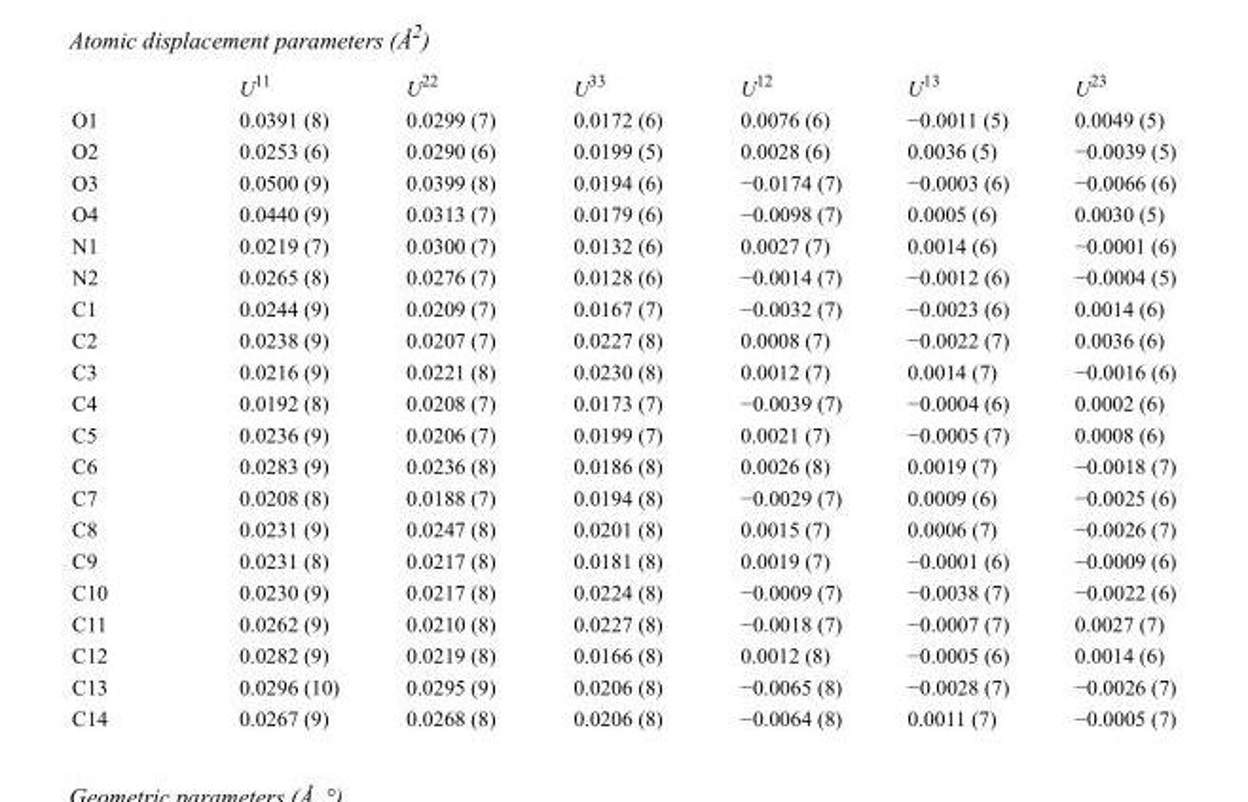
<table><thead><tr><td></td><td>U<sup>11</sup></td><td>U<sup>22</sup></td><td>U<sup>33</sup></td><td>U<sup>12</sup></td><td>U<sup>13</sup></td><td>U<sup>23</sup></td></tr></thead><tbody><tr><td>O1</td><td>0.0391 (8)</td><td>0.0299 (7)</td><td>0.0172 (6)</td><td>0.0076 (6)</td><td>−0.0011 (5)</td><td>0.0049 (5)</td></tr><tr><td>O2</td><td>0.0253 (6)</td><td>0.0290 (6)</td><td>0.0199 (5)</td><td>0.0028 (6)</td><td>0.0036 (5)</td><td>−0.0039 (5)</td></tr><tr><td>O3</td><td>0.0500 (9)</td><td>0.0399 (8)</td><td>0.0194 (6)</td><td>−0.0174 (7)</td><td>−0.0003 (6)</td><td>−0.0066 (6)</td></tr><tr><td>O4</td><td>0.0440 (9)</td><td>0.0313 (7)</td><td>0.0179 (6)</td><td>−0.0098 (7)</td><td>0.0005 (6)</td><td>0.0030 (5)</td></tr><tr><td>N1</td><td>0.0219 (7)</td><td>0.0300 (7)</td><td>0.0132 (6)</td><td>0.0027 (7)</td><td>0.0014 (6)</td><td>−0.0001 (6)</td></tr><tr><td>N2</td><td>0.0265 (8)</td><td>0.0276 (7)</td><td>0.0128 (6)</td><td>−0.0014 (7)</td><td>−0.0012 (6)</td><td>−0.0004 (5)</td></tr><tr><td>C1</td><td>0.0244 (9)</td><td>0.0209 (7)</td><td>0.0167 (7)</td><td>−0.0032 (7)</td><td>−0.0023 (6)</td><td>0.0014 (6)</td></tr><tr><td>C2</td><td>0.0238 (9)</td><td>0.0207 (7)</td><td>0.0227 (8)</td><td>0.0008 (7)</td><td>−0.0022 (7)</td><td>0.0036 (6)</td></tr><tr><td>C3</td><td>0.0216 (9)</td><td>0.0221 (8)</td><td>0.0230 (8)</td><td>0.0012 (7)</td><td>0.0014 (7)</td><td>−0.0016 (6)</td></tr><tr><td>C4</td><td>0.0192 (8)</td><td>0.0208 (7)</td><td>0.0173 (7)</td><td>−0.0039 (7)</td><td>−0.0004 (6)</td><td>0.0002 (6)</td></tr><tr><td>C5</td><td>0.0236 (9)</td><td>0.0206 (7)</td><td>0.0199 (7)</td><td>0.0021 (7)</td><td>−0.0005 (7)</td><td>0.0008 (6)</td></tr><tr><td>C6</td><td>0.0283 (9)</td><td>0.0236 (8)</td><td>0.0186 (8)</td><td>0.0026 (8)</td><td>0.0019 (7)</td><td>−0.0018 (7)</td></tr><tr><td>C7</td><td>0.0208 (8)</td><td>0.0188 (7)</td><td>0.0194 (8)</td><td>−0.0029 (7)</td><td>0.0009 (6)</td><td>−0.0025 (6)</td></tr><tr><td>C8</td><td>0.0231 (9)</td><td>0.0247 (8)</td><td>0.0201 (8)</td><td>0.0015 (7)</td><td>0.0006 (7)</td><td>−0.0026 (7)</td></tr><tr><td>C9</td><td>0.0231 (8)</td><td>0.0217 (8)</td><td>0.0181 (8)</td><td>0.0019 (7)</td><td>−0.0001 (6)</td><td>−0.0009 (6)</td></tr><tr><td>C10</td><td>0.0230 (9)</td><td>0.0217 (8)</td><td>0.0224 (8)</td><td>−0.0009 (7)</td><td>−0.0038 (7)</td><td>−0.0022 (6)</td></tr><tr><td>C11</td><td>0.0262 (9)</td><td>0.0210 (8)</td><td>0.0227 (8)</td><td>−0.0018 (7)</td><td>−0.0007 (7)</td><td>0.0027 (7)</td></tr><tr><td>C12</td><td>0.0282 (9)</td><td>0.0219 (8)</td><td>0.0166 (8)</td><td>0.0012 (8)</td><td>−0.0005 (6)</td><td>0.0014 (6)</td></tr><tr><td>C13</td><td>0.0296 (10)</td><td>0.0295 (9)</td><td>0.0206 (8)</td><td>−0.0065 (8)</td><td>−0.0028 (7)</td><td>−0.0026 (7)</td></tr><tr><td>C14</td><td>0.0267 (9)</td><td>0.0268 (8)</td><td>0.0206 (8)</td><td>−0.0064 (8)</td><td>0.0011 (7)</td><td>−0.0005 (7)</td></tr></tbody></table>